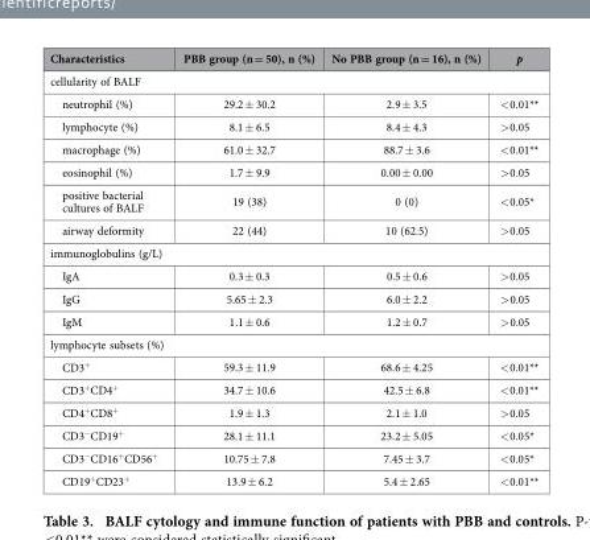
<table><thead><tr><td>Characteristics</td><td>PBB group (n = 50), n (%)</td><td>No PBB group (n = 16), n (%)</td><td>p</td></tr></thead><tbody><tr><td colspan="4">cellularity of BALF</td></tr><tr><td>neutrophil (%)</td><td>29.2 ± 30.2</td><td>2.9 ± 3.5</td><td>&lt; 0.01**</td></tr><tr><td>lymphocyte (%)</td><td>8.1 ± 6.5</td><td>8.4 ± 4.3</td><td>&gt; 0.05</td></tr><tr><td>macrophage (%)</td><td>61.0 ± 32.7</td><td>88.7 ± 3.6</td><td>&lt; 0.01**</td></tr><tr><td>eosinophil (%)</td><td>1.7 ± 9.9</td><td>0.00 ± 0.00</td><td>&gt; 0.05</td></tr><tr><td>positive bacterial cultures of BALF</td><td>19 (38)</td><td>0 (0)</td><td>&lt; 0.05*</td></tr><tr><td>airway deformity</td><td>22 (44)</td><td>10 (62.5)</td><td>&gt; 0.05</td></tr><tr><td colspan="4">immunoglobulins (g/L)</td></tr><tr><td>IgA</td><td>0.3 ± 0.3</td><td>0.5 ± 0.6</td><td>&gt; 0.05</td></tr><tr><td>IgG</td><td>5.65 ± 2.3</td><td>6.0 ± 2.2</td><td>&gt; 0.05</td></tr><tr><td>IgM</td><td>1.1 ± 0.6</td><td>1.2 ± 0.7</td><td>&gt; 0.05</td></tr><tr><td colspan="4">lymphocyte subsets (%)</td></tr><tr><td>CD3<sup>+</sup></td><td>59.3 ± 11.9</td><td>68.6 ± 4.25</td><td>&lt; 0.01**</td></tr><tr><td>CD3<sup>+</sup>CD4<sup>+</sup></td><td>34.7 ± 10.6</td><td>42.5 ± 6.8</td><td>&lt; 0.01**</td></tr><tr><td>CD4<sup>+</sup>CD8<sup>+</sup></td><td>1.9 ± 1.3</td><td>2.1 ± 1.0</td><td>&gt; 0.05</td></tr><tr><td>CD3<sup>−</sup>CD19<sup>+</sup></td><td>28.1 ± 11.1</td><td>23.2 ± 5.05</td><td>&lt; 0.05*</td></tr><tr><td>CD3<sup>−</sup>CD16<sup>+</sup>CD56<sup>+</sup></td><td>10.75 ± 7.8</td><td>7.45 ± 3.7</td><td>&lt; 0.05*</td></tr><tr><td>CD19<sup>+</sup>CD23<sup>+</sup></td><td>13.9 ± 6.2</td><td>5.4 ± 2.65</td><td>&lt; 0.01**</td></tr></tbody></table>